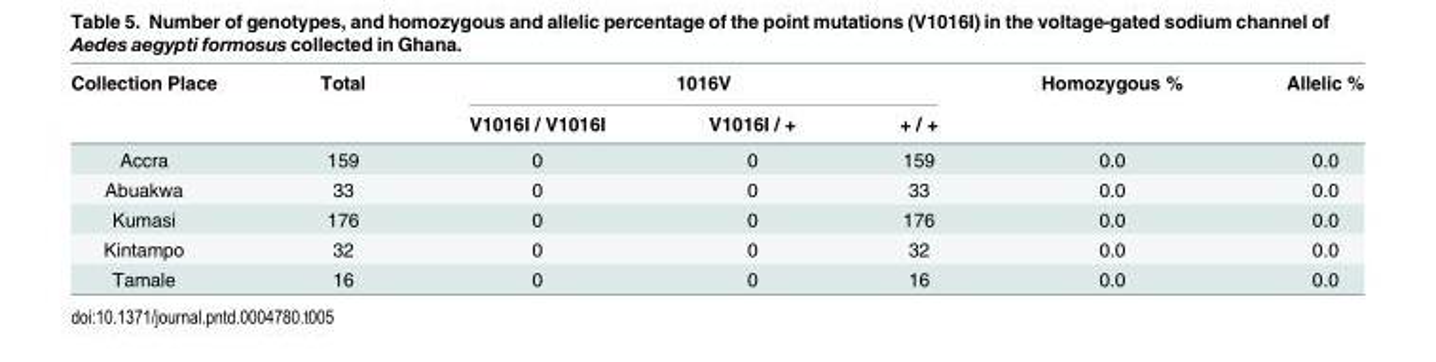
<table><thead><tr><td rowspan="2">Collection Place</td><td rowspan="2">Total</td><td colspan="3">1016V</td><td rowspan="2">Homozygous %</td><td rowspan="2">Allelic %</td></tr><tr><td>V1016I / V1016I</td><td>V1016I / +</td><td>+ / +</td></tr></thead><tbody><tr><td>Accra</td><td>159</td><td>0</td><td>0</td><td>159</td><td>0.0</td><td>0.0</td></tr><tr><td>Abuakwa</td><td>33</td><td>0</td><td>0</td><td>33</td><td>0.0</td><td>0.0</td></tr><tr><td>Kumasi</td><td>176</td><td>0</td><td>0</td><td>176</td><td>0.0</td><td>0.0</td></tr><tr><td>Kintampo</td><td>32</td><td>0</td><td>0</td><td>32</td><td>0.0</td><td>0.0</td></tr><tr><td>Tamale</td><td>16</td><td>0</td><td>0</td><td>16</td><td>0.0</td><td>0.0</td></tr></tbody></table>